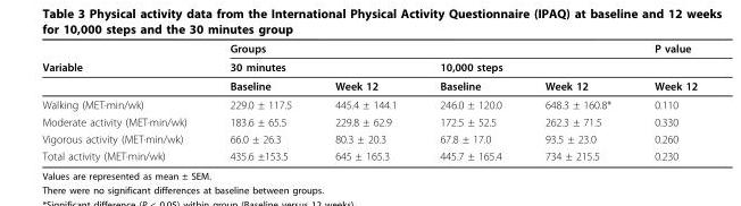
<table><thead><tr><td rowspan="3">Variable</td><td colspan="4">Groups</td><td rowspan="3">P value Week 12</td></tr><tr><td colspan="2">30 minutes</td><td colspan="2">10,000 steps</td></tr><tr><td>Baseline</td><td>Week 12</td><td>Baseline</td><td>Week 12</td></tr></thead><tbody><tr><td>Walking (MET·min/wk)</td><td>229.0 ± 117.5</td><td>445.4 ± 144.1</td><td>246.0 ± 120.0</td><td>648.3 ± 160.8*</td><td>0.110</td></tr><tr><td>Moderate activity (MET·min/wk)</td><td>183.6 ± 65.5</td><td>229.8 ± 62.9</td><td>172.5 ± 52.5</td><td>262.3 ± 71.5</td><td>0.330</td></tr><tr><td>Vigorous activity (MET·min/wk)</td><td>66.0 ± 26.3</td><td>80.3 ± 20.3</td><td>67.8 ± 17.0</td><td>93.5 ± 23.0</td><td>0.260</td></tr><tr><td>Total activity (MET·min/wk)</td><td>435.6 ±153.5</td><td>645 ± 165.3</td><td>445.7 ± 165.4</td><td>734 ± 215.5</td><td>0.230</td></tr></tbody></table>